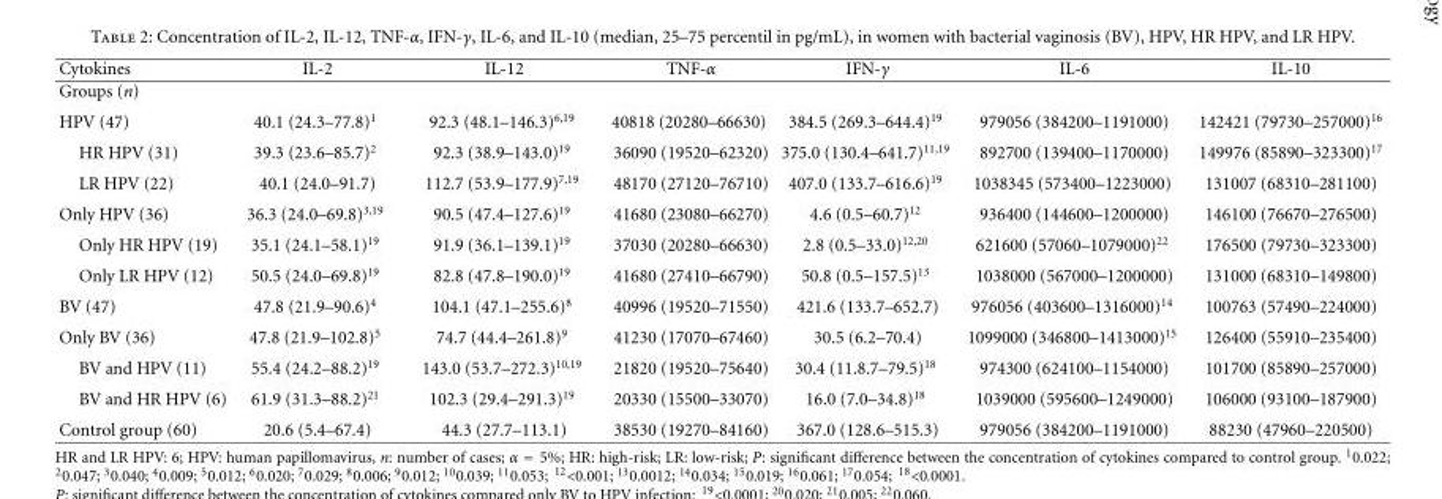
<table><thead><tr><td>Cytokines</td><td>IL-2</td><td>IL-12</td><td>TNF-α</td><td>IFN-γ</td><td>IL-6</td><td>IL-10</td></tr></thead><tbody><tr><td colspan="7">Groups (n)</td></tr><tr><td>HPV (47)</td><td>40.1 (24.3–77.8)<sup>1</sup></td><td>92.3 (48.1–146.3)<sup>6,19</sup></td><td>40818 (20280–66630)</td><td>384.5 (269.3–644.4)<sup>19</sup></td><td>979056 (384200–1191000)</td><td>142421 (79730–257000)<sup>16</sup></td></tr><tr><td>HR HPV (31)</td><td>39.3 (23.6–85.7)<sup>2</sup></td><td>92.3 (38.9–143.0)<sup>19</sup></td><td>36090 (19520–62320)</td><td>375.0 (130.4–641.7)<sup>11,19</sup></td><td>892700 (139400–1170000)</td><td>149976 (85890–323300)<sup>17</sup></td></tr><tr><td>LR HPV (22)</td><td>40.1 (24.0–91.7)</td><td>112.7 (53.9–177.9)<sup>7,19</sup></td><td>48170 (27120–76710)</td><td>407.0 (133.7–616.6)<sup>19</sup></td><td>1038345 (573400–1223000)</td><td>131007 (68310–281100)</td></tr><tr><td>Only HPV (36)</td><td>36.3 (24.0–69.8)<sup>3,19</sup></td><td>90.5 (47.4–127.6)<sup>19</sup></td><td>41680 (23080–66270)</td><td>4.6 (0.5–60.7)<sup>12</sup></td><td>936400 (144600–1200000)</td><td>146100 (76670–276500)</td></tr><tr><td>Only HR HPV (19)</td><td>35.1 (24.1–58.1)<sup>19</sup></td><td>91.9 (36.1–139.1)<sup>19</sup></td><td>37030 (20280–66630)</td><td>2.8 (0.5–33.0)<sup>12,20</sup></td><td>621600 (57060–1079000)<sup>22</sup></td><td>176500 (79730–323300)</td></tr><tr><td>Only LR HPV (12)</td><td>50.5 (24.0–69.8)<sup>19</sup></td><td>82.8 (47.8–190.0)<sup>19</sup></td><td>41680 (27410–66790)</td><td>50.8 (0.5–157.5)<sup>13</sup></td><td>1038000 (567000–1200000)</td><td>131000 (68310–149800)</td></tr><tr><td>BV (47)</td><td>47.8 (21.9–90.6)<sup>4</sup></td><td>104.1 (47.1–255.6)<sup>8</sup></td><td>40996 (19520–71550)</td><td>421.6 (133.7–652.7)</td><td>976056 (403600–1316000)<sup>14</sup></td><td>100763 (57490–224000)</td></tr><tr><td>Only BV (36)</td><td>47.8 (21.9–102.8)<sup>5</sup></td><td>74.7 (44.4–261.8)<sup>9</sup></td><td>41230 (17070–67460)</td><td>30.5 (6.2–70.4)</td><td>1099000 (346800–1413000)<sup>15</sup></td><td>126400 (55910–235400)</td></tr><tr><td>BV and HPV (11)</td><td>55.4 (24.2–88.2)<sup>19</sup></td><td>143.0 (53.7–272.3)<sup>10,19</sup></td><td>21820 (19520–75640)</td><td>30.4 (11.8.7–79.5)<sup>18</sup></td><td>974300 (624100–1154000)</td><td>101700 (85890–257000)</td></tr><tr><td>BV and HR HPV (6)</td><td>61.9 (31.3–88.2)<sup>21</sup></td><td>102.3 (29.4–291.3)<sup>19</sup></td><td>20330 (15500–33070)</td><td>16.0 (7.0–34.8)<sup>18</sup></td><td>1039000 (595600–1249000)</td><td>106000 (93100–187900)</td></tr><tr><td>Control group (60)</td><td>20.6 (5.4–67.4)</td><td>44.3 (27.7–113.1)</td><td>38530 (19270–84160)</td><td>367.0 (128.6–515.3)</td><td>979056 (384200–1191000)</td><td>88230 (47960–220500)</td></tr></tbody></table>